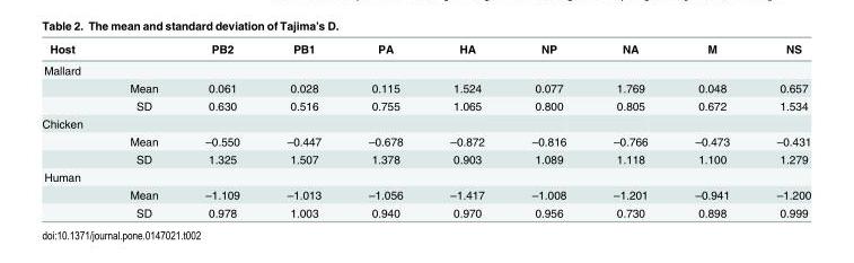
<table><thead><tr><td>Host</td><td></td><td>PB2</td><td>PB1</td><td>PA</td><td>HA</td><td>NP</td><td>NA</td><td>M</td><td>NS</td></tr></thead><tbody><tr><td colspan="10">Mallard</td></tr><tr><td></td><td>Mean</td><td>0.061</td><td>0.028</td><td>0.115</td><td>1.524</td><td>0.077</td><td>1.769</td><td>0.048</td><td>0.657</td></tr><tr><td></td><td>SD</td><td>0.630</td><td>0.516</td><td>0.755</td><td>1.065</td><td>0.800</td><td>0.805</td><td>0.672</td><td>1.534</td></tr><tr><td colspan="10">Chicken</td></tr><tr><td></td><td>Mean</td><td>–0.550</td><td>–0.447</td><td>–0.678</td><td>–0.872</td><td>–0.816</td><td>–0.766</td><td>–0.473</td><td>–0.431</td></tr><tr><td></td><td>SD</td><td>1.325</td><td>1.507</td><td>1.378</td><td>0.903</td><td>1.089</td><td>1.118</td><td>1.100</td><td>1.279</td></tr><tr><td colspan="10">Human</td></tr><tr><td></td><td>Mean</td><td>–1.109</td><td>–1.013</td><td>–1.056</td><td>–1.417</td><td>–1.008</td><td>–1.201</td><td>–0.941</td><td>–1.200</td></tr><tr><td></td><td>SD</td><td>0.978</td><td>1.003</td><td>0.940</td><td>0.970</td><td>0.956</td><td>0.730</td><td>0.898</td><td>0.999</td></tr></tbody></table>